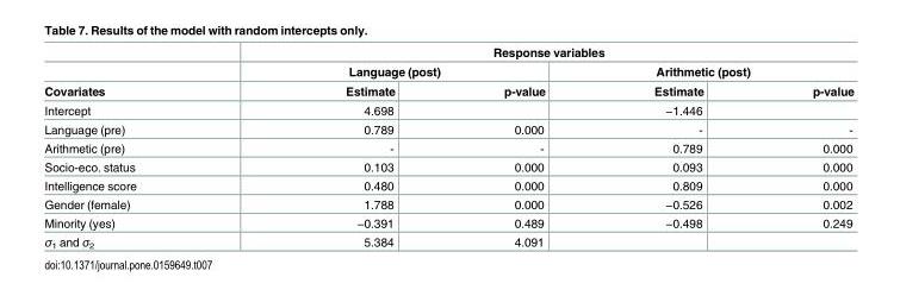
<table><thead><tr><td rowspan="3">Covariates</td><td colspan="4">Response variables</td></tr><tr><td colspan="2">Language (post)</td><td colspan="2">Arithmetic (post)</td></tr><tr><td>Estimate</td><td>p-value</td><td>Estimate</td><td>p-value</td></tr></thead><tbody><tr><td>Intercept</td><td>4.698</td><td></td><td>−1.446</td><td></td></tr><tr><td>Language (pre)</td><td>0.789</td><td>0.000</td><td>-</td><td>-</td></tr><tr><td>Arithmetic (pre)</td><td>-</td><td>-</td><td>0.789</td><td>0.000</td></tr><tr><td>Socio-eco. status</td><td>0.103</td><td>0.000</td><td>0.093</td><td>0.000</td></tr><tr><td>Intelligence score</td><td>0.480</td><td>0.000</td><td>0.809</td><td>0.000</td></tr><tr><td>Gender (female)</td><td>1.788</td><td>0.000</td><td>−0.526</td><td>0.002</td></tr><tr><td>Minority (yes)</td><td>−0.391</td><td>0.489</td><td>−0.498</td><td>0.249</td></tr><tr><td>σ<sub>1</sub> and σ<sub>2</sub></td><td>5.384</td><td>4.091</td><td></td><td></td></tr></tbody></table>